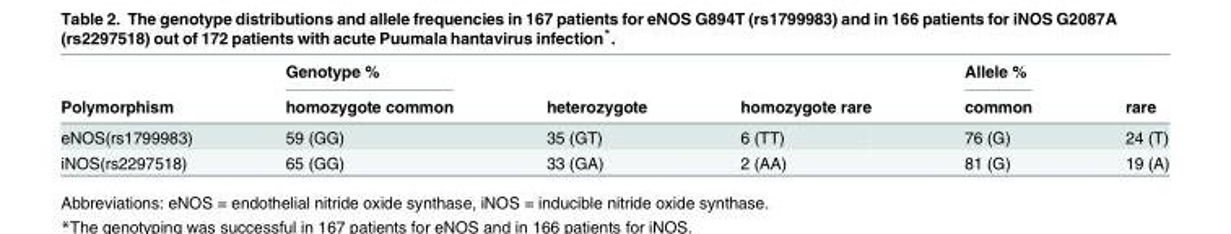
<table><thead><tr><td rowspan="2">Polymorphism</td><td rowspan="2">Genotype % homozygote common</td><td rowspan="2">heterozygote</td><td rowspan="2">homozygote rare</td><td rowspan="2">Allele % common</td><td rowspan="2">rare</td></tr><tr></tr></thead><tbody><tr><td>eNOS(rs1799983)</td><td>59 (GG)</td><td>35 (GT)</td><td>6 (TT)</td><td>76 (G)</td><td>24 (T)</td></tr><tr><td>iNOS(rs2297518)</td><td>65 (GG)</td><td>33 (GA)</td><td>2 (AA)</td><td>81 (G)</td><td>19 (A)</td></tr></tbody></table>